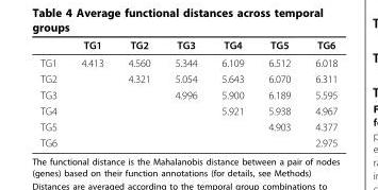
<table><thead><tr><td></td><td>TG1</td><td>TG2</td><td>TG3</td><td>TG4</td><td>TG5</td><td>TG6</td></tr></thead><tbody><tr><td>TG1</td><td>4.413</td><td>4.560</td><td>5.344</td><td>6.109</td><td>6.512</td><td>6.018</td></tr><tr><td>TG2</td><td></td><td>4.321</td><td>5.054</td><td>5.643</td><td>6.070</td><td>6.311</td></tr><tr><td>TG3</td><td></td><td></td><td>4.996</td><td>5.900</td><td>6.189</td><td>5.595</td></tr><tr><td>TG4</td><td></td><td></td><td></td><td>5.921</td><td>5.938</td><td>4.967</td></tr><tr><td>TG5</td><td></td><td></td><td></td><td></td><td>4.903</td><td>4.377</td></tr><tr><td>TG6</td><td></td><td></td><td></td><td></td><td></td><td>2.975</td></tr></tbody></table>